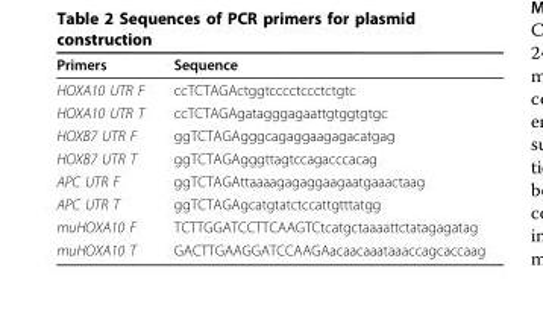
<table><thead><tr><td>Primers</td><td>Sequence</td></tr></thead><tbody><tr><td>HOXA10 UTR F</td><td>ccTCTAGActggtcccctccctctgtc</td></tr><tr><td>HOXA10 UTR T</td><td>ccTCTAGAgatagggagaattgtggtgtgc</td></tr><tr><td>HOXB7 UTR F</td><td>ggTCTAGAgggcagaggaagagacatgag</td></tr><tr><td>HOXB7 UTR T</td><td>ggTCTAGAgggttagtccagacccacag</td></tr><tr><td>APC UTR F</td><td>ggTCTAGAttaaaagagaggaagaatgaaactaag</td></tr><tr><td>APC UTR T</td><td>ggTCTAGAgcatgtatctccattgtttatgg</td></tr><tr><td>muHOXA10 F</td><td>TCTTGGATCCTTCAAGTCtcatgctaaaattctatagagatag</td></tr><tr><td>muHOXA10 T</td><td>GACTTGAAGGATCCAAGAacaacaaataaaccagcaccaag</td></tr></tbody></table>